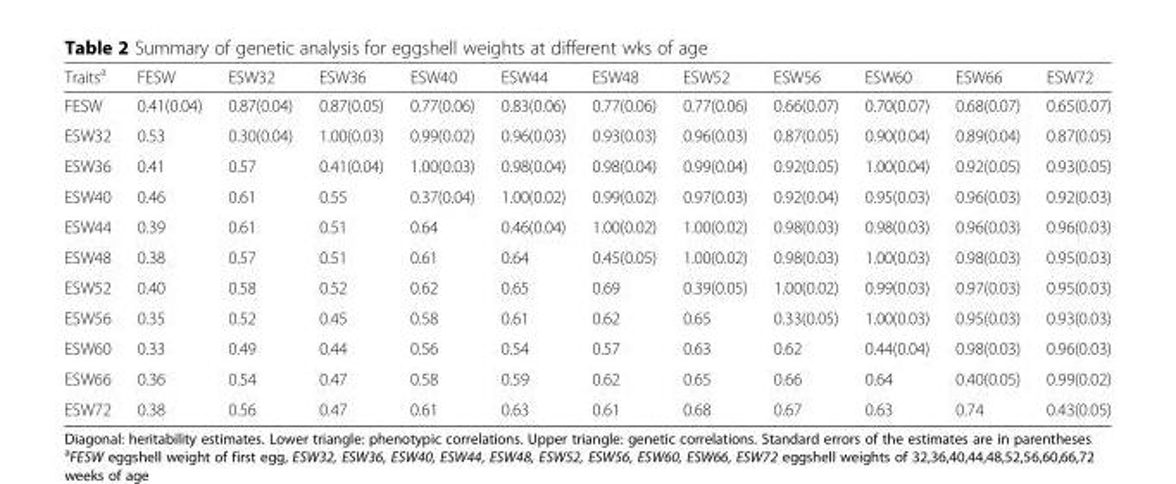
<table><thead><tr><td>Traits<sup>a</sup></td><td>FESW</td><td>ESW32</td><td>ESW36</td><td>ESW40</td><td>ESW44</td><td>ESW48</td><td>ESW52</td><td>ESW56</td><td>ESW60</td><td>ESW66</td><td>ESW72</td></tr></thead><tbody><tr><td>FESW</td><td>0.41(0.04)</td><td>0.87(0.04)</td><td>0.87(0.05)</td><td>0.77(0.06)</td><td>0.83(0.06)</td><td>0.77(0.06)</td><td>0.77(0.06)</td><td>0.66(0.07)</td><td>0.70(0.07)</td><td>0.68(0.07)</td><td>0.65(0.07)</td></tr><tr><td>ESW32</td><td>0.53</td><td>0.30(0.04)</td><td>1.00(0.03)</td><td>0.99(0.02)</td><td>0.96(0.03)</td><td>0.93(0.03)</td><td>0.96(0.03)</td><td>0.87(0.05)</td><td>0.90(0.04)</td><td>0.89(0.04)</td><td>0.87(0.05)</td></tr><tr><td>ESW36</td><td>0.41</td><td>0.57</td><td>0.41(0.04)</td><td>1.00(0.03)</td><td>0.98(0.04)</td><td>0.98(0.04)</td><td>0.99(0.04)</td><td>0.92(0.05)</td><td>1.00(0.04)</td><td>0.92(0.05)</td><td>0.93(0.05)</td></tr><tr><td>ESW40</td><td>0.46</td><td>0.61</td><td>0.55</td><td>0.37(0.04)</td><td>1.00(0.02)</td><td>0.99(0.02)</td><td>0.97(0.03)</td><td>0.92(0.04)</td><td>0.95(0.03)</td><td>0.96(0.03)</td><td>0.92(0.03)</td></tr><tr><td>ESW44</td><td>0.39</td><td>0.61</td><td>0.51</td><td>0.64</td><td>0.46(0.04)</td><td>1.00(0.02)</td><td>1.00(0.02)</td><td>0.98(0.03)</td><td>0.98(0.03)</td><td>0.96(0.03)</td><td>0.96(0.03)</td></tr><tr><td>ESW48</td><td>0.38</td><td>0.57</td><td>0.51</td><td>0.61</td><td>0.64</td><td>0.45(0.05)</td><td>1.00(0.02)</td><td>0.98(0.03)</td><td>1.00(0.03)</td><td>0.98(0.03)</td><td>0.95(0.03)</td></tr><tr><td>ESW52</td><td>0.40</td><td>0.58</td><td>0.52</td><td>0.62</td><td>0.65</td><td>0.69</td><td>0.39(0.05)</td><td>1.00(0.02)</td><td>0.99(0.03)</td><td>0.97(0.03)</td><td>0.95(0.03)</td></tr><tr><td>ESW56</td><td>0.35</td><td>0.52</td><td>0.45</td><td>0.58</td><td>0.61</td><td>0.62</td><td>0.65</td><td>0.33(0.05)</td><td>1.00(0.03)</td><td>0.95(0.03)</td><td>0.93(0.03)</td></tr><tr><td>ESW60</td><td>0.33</td><td>0.49</td><td>0.44</td><td>0.56</td><td>0.54</td><td>0.57</td><td>0.63</td><td>0.62</td><td>0.44(0.04)</td><td>0.98(0.03)</td><td>0.96(0.03)</td></tr><tr><td>ESW66</td><td>0.36</td><td>0.54</td><td>0.47</td><td>0.58</td><td>0.59</td><td>0.62</td><td>0.65</td><td>0.66</td><td>0.64</td><td>0.40(0.05)</td><td>0.99(0.02)</td></tr><tr><td>ESW72</td><td>0.38</td><td>0.56</td><td>0.47</td><td>0.61</td><td>0.63</td><td>0.61</td><td>0.68</td><td>0.67</td><td>0.63</td><td>0.74</td><td>0.43(0.05)</td></tr></tbody></table>